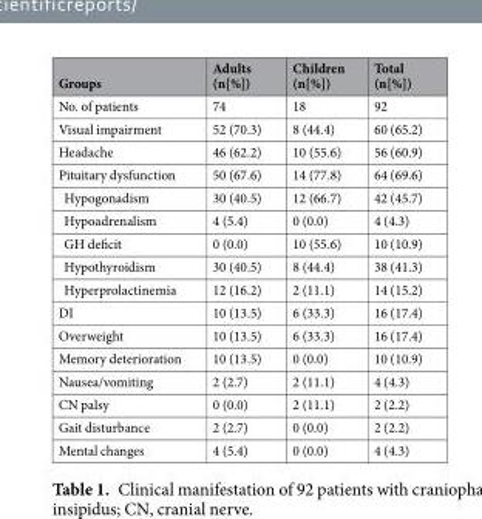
<table><thead><tr><td>Groups</td><td>Adults (n[%])</td><td>Children (n[%])</td><td>Total (n[%])</td></tr></thead><tbody><tr><td>No. of patients</td><td>74</td><td>18</td><td>92</td></tr><tr><td>Visual impairment</td><td>52 (70.3)</td><td>8 (44.4)</td><td>60 (65.2)</td></tr><tr><td>Headache</td><td>46 (62.2)</td><td>10 (55.6)</td><td>56 (60.9)</td></tr><tr><td>Pituitary dysfunction</td><td>50 (67.6)</td><td>14 (77.8)</td><td>64 (69.6)</td></tr><tr><td>Hypogonadism</td><td>30 (40.5)</td><td>12 (66.7)</td><td>42 (45.7)</td></tr><tr><td>Hypoadrenalism</td><td>4 (5.4)</td><td>0 (0.0)</td><td>4 (4.3)</td></tr><tr><td>GH deficit</td><td>0 (0.0)</td><td>10 (55.6)</td><td>10 (10.9)</td></tr><tr><td>Hypothyroidism</td><td>30 (40.5)</td><td>8 (44.4)</td><td>38 (41.3)</td></tr><tr><td>Hyperprolactinemia</td><td>12 (16.2)</td><td>2 (11.1)</td><td>14 (15.2)</td></tr><tr><td>DI</td><td>10 (13.5)</td><td>6 (33.3)</td><td>16 (17.4)</td></tr><tr><td>Overweight</td><td>10 (13.5)</td><td>6 (33.3)</td><td>16 (17.4)</td></tr><tr><td>Memory deterioration</td><td>10 (13.5)</td><td>0 (0.0)</td><td>10 (10.9)</td></tr><tr><td>Nausea/vomiting</td><td>2 (2.7)</td><td>2 (11.1)</td><td>4 (4.3)</td></tr><tr><td>CN palsy</td><td>0 (0.0)</td><td>2 (11.1)</td><td>2 (2.2)</td></tr><tr><td>Gait disturbance</td><td>2 (2.7)</td><td>0 (0.0)</td><td>2 (2.2)</td></tr><tr><td>Mental changes</td><td>4 (5.4)</td><td>0 (0.0)</td><td>4 (4.3)</td></tr></tbody></table>